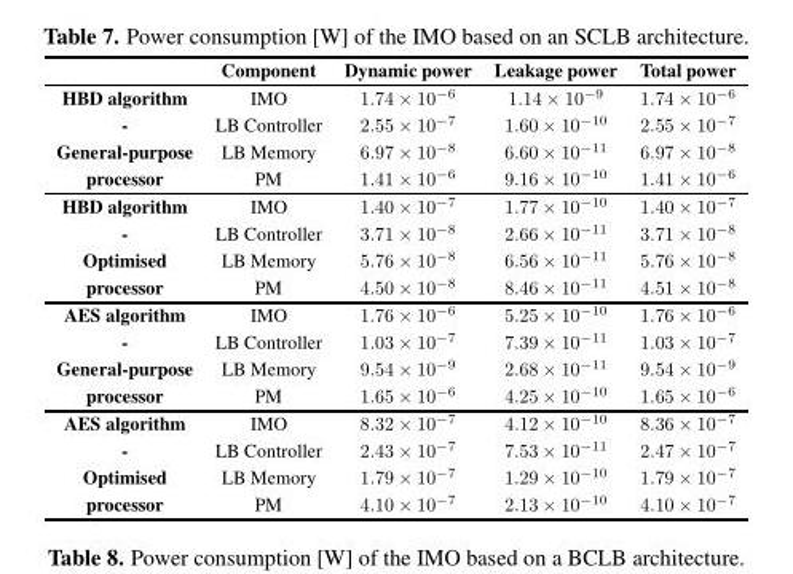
<table><thead><tr><td></td><td>Component</td><td>Dynamic power</td><td>Leakage power</td><td>Total power</td></tr></thead><tbody><tr><td>HBD algorithm</td><td>IMO</td><td>1.74 × 10<sup>−6</sup></td><td>1.14 × 10<sup>−9</sup></td><td>1.74 × 10<sup>−6</sup></td></tr><tr><td>-</td><td>LB Controller</td><td>2.55 × 10<sup>−7</sup></td><td>1.60 × 10<sup>−10</sup></td><td>2.55 × 10<sup>−7</sup></td></tr><tr><td>General-purpose</td><td>LB Memory</td><td>6.97 × 10<sup>−8</sup></td><td>6.60 × 10<sup>−11</sup></td><td>6.97 × 10<sup>−8</sup></td></tr><tr><td>processor</td><td>PM</td><td>1.41 × 10<sup>−6</sup></td><td>9.16 × 10<sup>−10</sup></td><td>1.41 × 10<sup>−6</sup></td></tr><tr><td>HBD algorithm</td><td>IMO</td><td>1.40 × 10<sup>−7</sup></td><td>1.77 × 10<sup>−10</sup></td><td>1.40 × 10<sup>−7</sup></td></tr><tr><td>-</td><td>LB Controller</td><td>3.71 × 10<sup>−8</sup></td><td>2.66 × 10<sup>−11</sup></td><td>3.71 × 10<sup>−8</sup></td></tr><tr><td>Optimised</td><td>LB Memory</td><td>5.76 × 10<sup>−8</sup></td><td>6.56 × 10<sup>−11</sup></td><td>5.76 × 10<sup>−8</sup></td></tr><tr><td>processor</td><td>PM</td><td>4.50 × 10<sup>−8</sup></td><td>8.46 × 10<sup>−11</sup></td><td>4.51 × 10<sup>−8</sup></td></tr><tr><td>AES algorithm</td><td>IMO</td><td>1.76 × 10<sup>−6</sup></td><td>5.25 × 10<sup>−10</sup></td><td>1.76 × 10<sup>−6</sup></td></tr><tr><td>-</td><td>LB Controller</td><td>1.03 × 10<sup>−7</sup></td><td>7.39 × 10<sup>−11</sup></td><td>1.03 × 10<sup>−7</sup></td></tr><tr><td>General-purpose</td><td>LB Memory</td><td>9.54 × 10<sup>−9</sup></td><td>2.68 × 10<sup>−11</sup></td><td>9.54 × 10<sup>−9</sup></td></tr><tr><td>processor</td><td>PM</td><td>1.65 × 10<sup>−6</sup></td><td>4.25 × 10<sup>−10</sup></td><td>1.65 × 10<sup>−6</sup></td></tr><tr><td>AES algorithm</td><td>IMO</td><td>8.32 × 10<sup>−7</sup></td><td>4.12 × 10<sup>−10</sup></td><td>8.36 × 10<sup>−7</sup></td></tr><tr><td>-</td><td>LB Controller</td><td>2.43 × 10<sup>−7</sup></td><td>7.53 × 10<sup>−11</sup></td><td>2.47 × 10<sup>−7</sup></td></tr><tr><td>Optimised</td><td>LB Memory</td><td>1.79 × 10<sup>−7</sup></td><td>1.29 × 10<sup>−10</sup></td><td>1.79 × 10<sup>−7</sup></td></tr><tr><td>processor</td><td>PM</td><td>4.10 × 10<sup>−7</sup></td><td>2.13 × 10<sup>−10</sup></td><td>4.10 × 10<sup>−7</sup></td></tr></tbody></table>